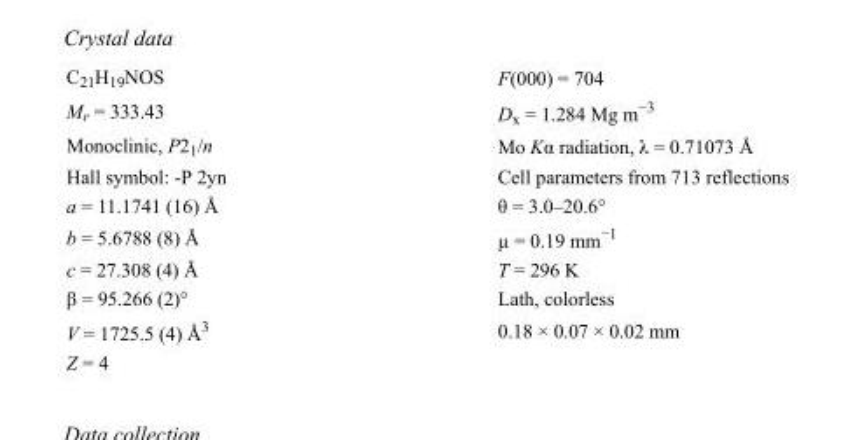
<table><tbody><tr><td>C<sub>21</sub>H<sub>19</sub>NOS</td><td>F(000) = 704</td></tr><tr><td>M<sub>r</sub> = 333.43</td><td>D<sub>x</sub> = 1.284 Mg m<sup>−3</sup></td></tr><tr><td>Monoclinic, P2<sub>1</sub>/n</td><td>Mo Kα radiation, λ = 0.71073 Å</td></tr><tr><td>Hall symbol: -P 2yn</td><td>Cell parameters from 713 reflections</td></tr><tr><td>a = 11.1741 (16) Å</td><td>θ = 3.0–20.6°</td></tr><tr><td>b = 5.6788 (8) Å</td><td>µ = 0.19 mm<sup>−1</sup></td></tr><tr><td>c = 27.308 (4) Å</td><td>T = 296 K</td></tr><tr><td>β = 95.266 (2)°</td><td>Lath, colorless</td></tr><tr><td>V = 1725.5 (4) Å<sup>3</sup></td><td>0.18 × 0.07 × 0.02 mm</td></tr><tr><td>Z = 4</td><td></td></tr></tbody></table>